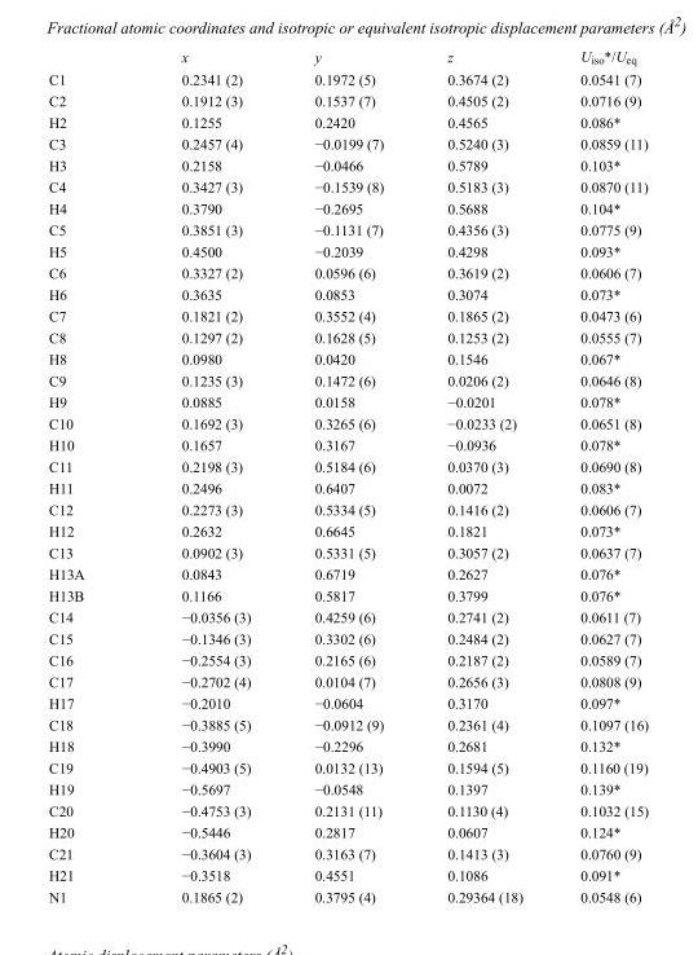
<table><thead><tr><td></td><td>x</td><td>y</td><td>z</td><td>U<sub>iso</sub>*/U<sub>eq</sub></td></tr></thead><tbody><tr><td>C1</td><td>0.2341 (2)</td><td>0.1972 (5)</td><td>0.3674 (2)</td><td>0.0541 (7)</td></tr><tr><td>C2</td><td>0.1912 (3)</td><td>0.1537 (7)</td><td>0.4505 (2)</td><td>0.0716 (9)</td></tr><tr><td>H2</td><td>0.1255</td><td>0.2420</td><td>0.4565</td><td>0.086*</td></tr><tr><td>C3</td><td>0.2457 (4)</td><td>−0.0199 (7)</td><td>0.5240 (3)</td><td>0.0859 (11)</td></tr><tr><td>H3</td><td>0.2158</td><td>−0.0466</td><td>0.5789</td><td>0.103*</td></tr><tr><td>C4</td><td>0.3427 (3)</td><td>−0.1539 (8)</td><td>0.5183 (3)</td><td>0.0870 (11)</td></tr><tr><td>H4</td><td>0.3790</td><td>−0.2695</td><td>0.5688</td><td>0.104*</td></tr><tr><td>C5</td><td>0.3851 (3)</td><td>−0.1131 (7)</td><td>0.4356 (3)</td><td>0.0775 (9)</td></tr><tr><td>H5</td><td>0.4500</td><td>−0.2039</td><td>0.4298</td><td>0.093*</td></tr><tr><td>C6</td><td>0.3327 (2)</td><td>0.0596 (6)</td><td>0.3619 (2)</td><td>0.0606 (7)</td></tr><tr><td>H6</td><td>0.3635</td><td>0.0853</td><td>0.3074</td><td>0.073*</td></tr><tr><td>C7</td><td>0.1821 (2)</td><td>0.3552 (4)</td><td>0.1865 (2)</td><td>0.0473 (6)</td></tr><tr><td>C8</td><td>0.1297 (2)</td><td>0.1628 (5)</td><td>0.1253 (2)</td><td>0.0555 (7)</td></tr><tr><td>H8</td><td>0.0980</td><td>0.0420</td><td>0.1546</td><td>0.067*</td></tr><tr><td>C9</td><td>0.1235 (3)</td><td>0.1472 (6)</td><td>0.0206 (2)</td><td>0.0646 (8)</td></tr><tr><td>H9</td><td>0.0885</td><td>0.0158</td><td>−0.0201</td><td>0.078*</td></tr><tr><td>C10</td><td>0.1692 (3)</td><td>0.3265 (6)</td><td>−0.0233 (2)</td><td>0.0651 (8)</td></tr><tr><td>H10</td><td>0.1657</td><td>0.3167</td><td>−0.0936</td><td>0.078*</td></tr><tr><td>C11</td><td>0.2198 (3)</td><td>0.5184 (6)</td><td>0.0370 (3)</td><td>0.0690 (8)</td></tr><tr><td>H11</td><td>0.2496</td><td>0.6407</td><td>0.0072</td><td>0.083*</td></tr><tr><td>C12</td><td>0.2273 (3)</td><td>0.5334 (5)</td><td>0.1416 (2)</td><td>0.0606 (7)</td></tr><tr><td>H12</td><td>0.2632</td><td>0.6645</td><td>0.1821</td><td>0.073*</td></tr><tr><td>C13</td><td>0.0902 (3)</td><td>0.5331 (5)</td><td>0.3057 (2)</td><td>0.0637 (7)</td></tr><tr><td>H13A</td><td>0.0843</td><td>0.6719</td><td>0.2627</td><td>0.076*</td></tr><tr><td>H13B</td><td>0.1166</td><td>0.5817</td><td>0.3799</td><td>0.076*</td></tr><tr><td>C14</td><td>−0.0356 (3)</td><td>0.4259 (6)</td><td>0.2741 (2)</td><td>0.0611 (7)</td></tr><tr><td>C15</td><td>−0.1346 (3)</td><td>0.3302 (6)</td><td>0.2484 (2)</td><td>0.0627 (7)</td></tr><tr><td>C16</td><td>−0.2554 (3)</td><td>0.2165 (6)</td><td>0.2187 (2)</td><td>0.0589 (7)</td></tr><tr><td>C17</td><td>−0.2702 (4)</td><td>0.0104 (7)</td><td>0.2656 (3)</td><td>0.0808 (9)</td></tr><tr><td>H17</td><td>−0.2010</td><td>−0.0604</td><td>0.3170</td><td>0.097*</td></tr><tr><td>C18</td><td>−0.3885 (5)</td><td>−0.0912 (9)</td><td>0.2361 (4)</td><td>0.1097 (16)</td></tr><tr><td>H18</td><td>−0.3990</td><td>−0.2296</td><td>0.2681</td><td>0.132*</td></tr><tr><td>C19</td><td>−0.4903 (5)</td><td>0.0132 (13)</td><td>0.1594 (5)</td><td>0.1160 (19)</td></tr><tr><td>H19</td><td>−0.5697</td><td>−0.0548</td><td>0.1397</td><td>0.139*</td></tr><tr><td>C20</td><td>−0.4753 (3)</td><td>0.2131 (11)</td><td>0.1130 (4)</td><td>0.1032 (15)</td></tr><tr><td>H20</td><td>−0.5446</td><td>0.2817</td><td>0.0607</td><td>0.124*</td></tr><tr><td>C21</td><td>−0.3604 (3)</td><td>0.3163 (7)</td><td>0.1413 (3)</td><td>0.0760 (9)</td></tr><tr><td>H21</td><td>−0.3518</td><td>0.4551</td><td>0.1086</td><td>0.091*</td></tr><tr><td>N1</td><td>0.1865 (2)</td><td>0.3795 (4)</td><td>0.29364 (18)</td><td>0.0548 (6)</td></tr></tbody></table>